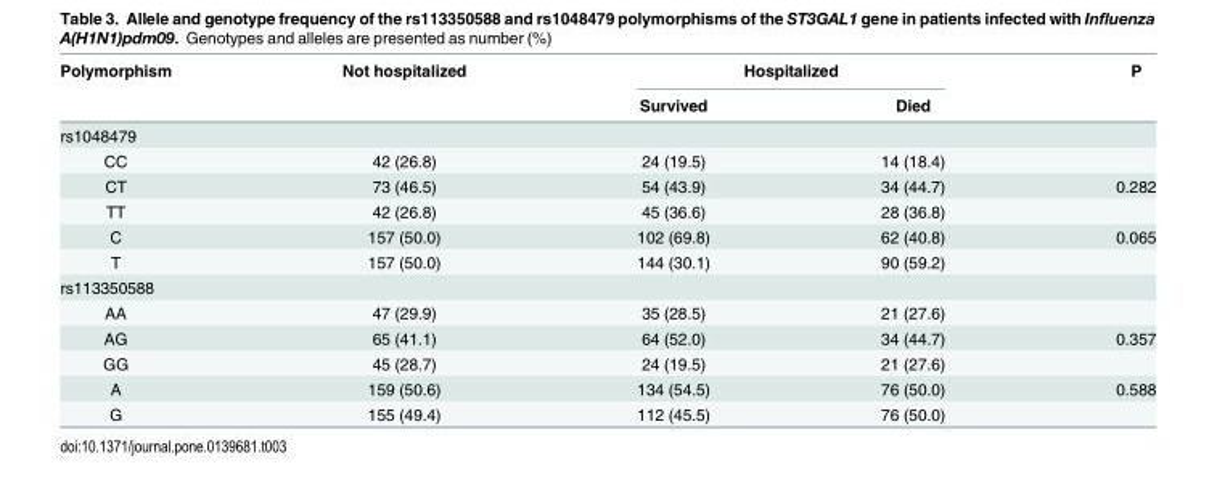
<table><thead><tr><td rowspan="2">Polymorphism</td><td rowspan="2">Not hospitalized</td><td colspan="2">Hospitalized</td><td rowspan="2">P</td></tr><tr><td>Survived</td><td>Died</td></tr></thead><tbody><tr><td colspan="5">rs1048479</td></tr><tr><td>CC</td><td>42 (26.8)</td><td>24 (19.5)</td><td>14 (18.4)</td><td></td></tr><tr><td>CT</td><td>73 (46.5)</td><td>54 (43.9)</td><td>34 (44.7)</td><td>0.282</td></tr><tr><td>TT</td><td>42 (26.8)</td><td>45 (36.6)</td><td>28 (36.8)</td><td></td></tr><tr><td>C</td><td>157 (50.0)</td><td>102 (69.8)</td><td>62 (40.8)</td><td>0.065</td></tr><tr><td>T</td><td>157 (50.0)</td><td>144 (30.1)</td><td>90 (59.2)</td><td></td></tr><tr><td colspan="5">rs113350588</td></tr><tr><td>AA</td><td>47 (29.9)</td><td>35 (28.5)</td><td>21 (27.6)</td><td></td></tr><tr><td>AG</td><td>65 (41.1)</td><td>64 (52.0)</td><td>34 (44.7)</td><td>0.357</td></tr><tr><td>GG</td><td>45 (28.7)</td><td>24 (19.5)</td><td>21 (27.6)</td><td></td></tr><tr><td>A</td><td>159 (50.6)</td><td>134 (54.5)</td><td>76 (50.0)</td><td>0.588</td></tr><tr><td>G</td><td>155 (49.4)</td><td>112 (45.5)</td><td>76 (50.0)</td><td></td></tr></tbody></table>